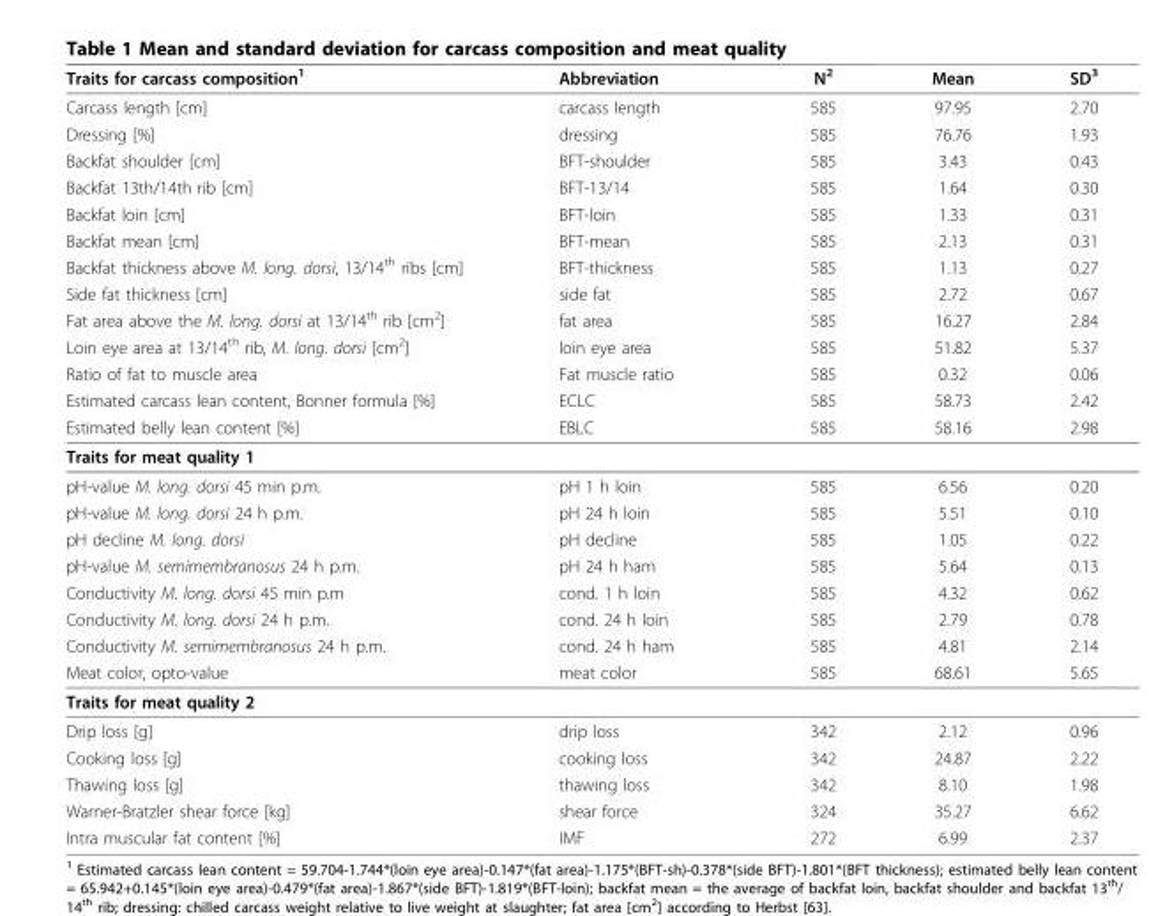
<table><thead><tr><td>Traits for carcass composition<sup>1</sup></td><td>Abbreviation</td><td>N<sup>2</sup></td><td>Mean</td><td>SD<sup>3</sup></td></tr></thead><tbody><tr><td>Carcass length [cm]</td><td>carcass length</td><td>585</td><td>97.95</td><td>2.70</td></tr><tr><td>Dressing [%]</td><td>dressing</td><td>585</td><td>76.76</td><td>1.93</td></tr><tr><td>Backfat shoulder [cm]</td><td>BFT-shoulder</td><td>585</td><td>3.43</td><td>0.43</td></tr><tr><td>Backfat 13th/14th rib [cm]</td><td>BFT-13/14</td><td>585</td><td>1.64</td><td>0.30</td></tr><tr><td>Backfat loin [cm]</td><td>BFT-loin</td><td>585</td><td>1.33</td><td>0.31</td></tr><tr><td>Backfat mean [cm]</td><td>BFT-mean</td><td>585</td><td>2.13</td><td>0.31</td></tr><tr><td>Backfat thickness above M. long. dorsi, 13/14<sup>th</sup> ribs [cm]</td><td>BFT-thickness</td><td>585</td><td>1.13</td><td>0.27</td></tr><tr><td>Side fat thickness [cm]</td><td>side fat</td><td>585</td><td>2.72</td><td>0.67</td></tr><tr><td>Fat area above the M. long. dorsi at 13/14<sup>th</sup> rib [cm<sup>2</sup>]</td><td>fat area</td><td>585</td><td>16.27</td><td>2.84</td></tr><tr><td>Loin eye area at 13/14<sup>th</sup> rib, M. long. dorsi [cm<sup>2</sup>]</td><td>loin eye area</td><td>585</td><td>51.82</td><td>5.37</td></tr><tr><td>Ratio of fat to muscle area</td><td>Fat muscle ratio</td><td>585</td><td>0.32</td><td>0.06</td></tr><tr><td>Estimated carcass lean content, Bonner formula [%]</td><td>ECLC</td><td>585</td><td>58.73</td><td>2.42</td></tr><tr><td>Estimated belly lean content [%]</td><td>EBLC</td><td>585</td><td>58.16</td><td>2.98</td></tr><tr><td colspan="5">Traits for meat quality 1</td></tr><tr><td>pH-value M. long. dorsi 45 min p.m.</td><td>pH 1 h loin</td><td>585</td><td>6.56</td><td>0.20</td></tr><tr><td>pH-value M. long. dorsi 24 h p.m.</td><td>pH 24 h loin</td><td>585</td><td>5.51</td><td>0.10</td></tr><tr><td>pH decline M. long. dorsi</td><td>pH decline</td><td>585</td><td>1.05</td><td>0.22</td></tr><tr><td>pH-value M. semimembranosus 24 h p.m.</td><td>pH 24 h ham</td><td>585</td><td>5.64</td><td>0.13</td></tr><tr><td>Conductivity M. long. dorsi 45 min p.m</td><td>cond. 1 h loin</td><td>585</td><td>4.32</td><td>0.62</td></tr><tr><td>Conductivity M. long. dorsi 24 h p.m.</td><td>cond. 24 h loin</td><td>585</td><td>2.79</td><td>0.78</td></tr><tr><td>Conductivity M. semimembranosus 24 h p.m.</td><td>cond. 24 h ham</td><td>585</td><td>4.81</td><td>2.14</td></tr><tr><td>Meat color, opto-value</td><td>meat color</td><td>585</td><td>68.61</td><td>5.65</td></tr><tr><td colspan="5">Traits for meat quality 2</td></tr><tr><td>Drip loss [g]</td><td>drip loss</td><td>342</td><td>2.12</td><td>0.96</td></tr><tr><td>Cooking loss [g]</td><td>cooking loss</td><td>342</td><td>24.87</td><td>2.22</td></tr><tr><td>Thawing loss [g]</td><td>thawing loss</td><td>342</td><td>8.10</td><td>1.98</td></tr><tr><td>Warner-Bratzler shear force [kg]</td><td>shear force</td><td>324</td><td>35.27</td><td>6.62</td></tr><tr><td>Intra muscular fat content [%]</td><td>IMF</td><td>272</td><td>6.99</td><td>2.37</td></tr></tbody></table>